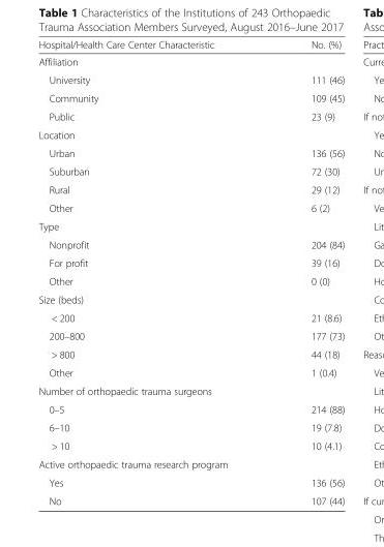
<table><thead><tr><td>Hospital/Health Care Center Characteristic</td><td>No. (%)</td></tr></thead><tbody><tr><td colspan="2">Affiliation</td></tr><tr><td>University</td><td>111 (46)</td></tr><tr><td>Community</td><td>109 (45)</td></tr><tr><td>Public</td><td>23 (9)</td></tr><tr><td colspan="2">Location</td></tr><tr><td>Urban</td><td>136 (56)</td></tr><tr><td>Suburban</td><td>72 (30)</td></tr><tr><td>Rural</td><td>29 (12)</td></tr><tr><td>Other</td><td>6 (2)</td></tr><tr><td colspan="2">Type</td></tr><tr><td>Nonprofit</td><td>204 (84)</td></tr><tr><td>For profit</td><td>39 (16)</td></tr><tr><td>Other</td><td>0 (0)</td></tr><tr><td colspan="2">Size (beds)</td></tr><tr><td>&lt; 200</td><td>21 (8.6)</td></tr><tr><td>200–800</td><td>177 (73)</td></tr><tr><td>&gt; 800</td><td>44 (18)</td></tr><tr><td>Other</td><td>1 (0.4)</td></tr><tr><td colspan="2">Number of orthopaedic trauma surgeons</td></tr><tr><td>0–5</td><td>214 (88)</td></tr><tr><td>6–10</td><td>19 (7.8)</td></tr><tr><td>&gt; 10</td><td>10 (4.1)</td></tr><tr><td colspan="2">Active orthopaedic trauma research program</td></tr><tr><td>Yes</td><td>136 (56)</td></tr><tr><td>No</td><td>107 (44)</td></tr></tbody></table>